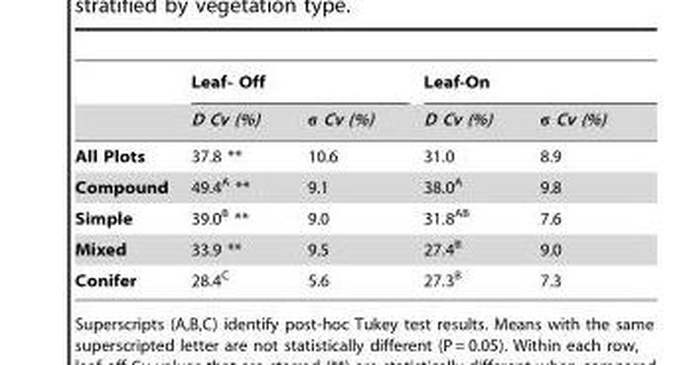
<table><thead><tr><td rowspan="2"></td><td colspan="2">Leaf- Off</td><td colspan="2">Leaf-On</td></tr><tr><td>D Cv (%)</td><td>σ Cv (%)</td><td>D Cv (%)</td><td>σ Cv (%)</td></tr></thead><tbody><tr><td>All Plots</td><td>37.8 **</td><td>10.6</td><td>31.0</td><td>8.9</td></tr><tr><td>Compound</td><td>49.4<sup>A</sup> **</td><td>9.1</td><td>38.0<sup>A</sup></td><td>9.8</td></tr><tr><td>Simple</td><td>39.0<sup>B</sup> **</td><td>9.0</td><td>31.8<sup>AB</sup></td><td>7.6</td></tr><tr><td>Mixed</td><td>33.9 **</td><td>9.5</td><td>27.4<sup>B</sup></td><td>9.0</td></tr><tr><td>Conifer</td><td>28.4<sup>C</sup></td><td>5.6</td><td>27.3<sup>B</sup></td><td>7.3</td></tr></tbody></table>